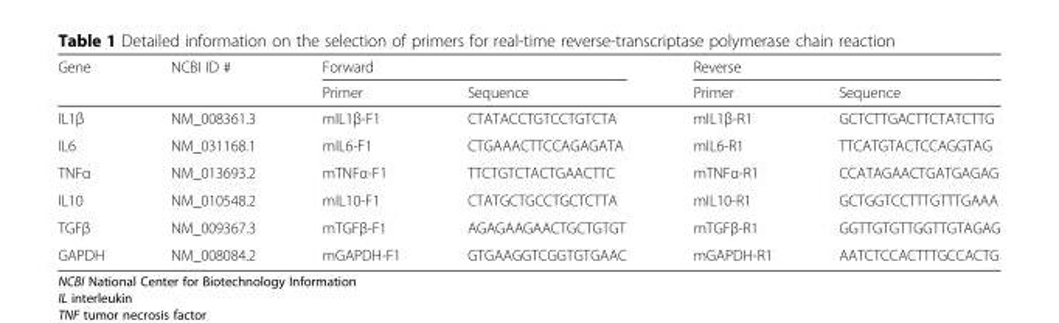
<table><thead><tr><td rowspan="2">Gene</td><td rowspan="2">NCBI ID #</td><td colspan="2">Forward</td><td colspan="2">Reverse</td></tr><tr><td>Primer</td><td>Sequence</td><td>Primer</td><td>Sequence</td></tr></thead><tbody><tr><td>IL1β</td><td>NM_008361.3</td><td>mIL1β-F1</td><td>CTATACCTGTCCTGTCTA</td><td>mIL1β-R1</td><td>GCTCTTGACTTCTATCTTG</td></tr><tr><td>IL6</td><td>NM_031168.1</td><td>mIL6-F1</td><td>CTGAAACTTCCAGAGATA</td><td>mIL6-R1</td><td>TTCATGTACTCCAGGTAG</td></tr><tr><td>TNFα</td><td>NM_013693.2</td><td>mTNFα-F1</td><td>TTCTGTCTACTGAACTTC</td><td>mTNFα-R1</td><td>CCATAGAACTGATGAGAG</td></tr><tr><td>IL10</td><td>NM_010548.2</td><td>mIL10-F1</td><td>CTATGCTGCCTGCTCTTA</td><td>mIL10-R1</td><td>GCTGGTCCTTTGTTTGAAA</td></tr><tr><td>TGFβ</td><td>NM_009367.3</td><td>mTGFβ-F1</td><td>AGAGAAGAACTGCTGTGT</td><td>mTGFβ-R1</td><td>GGTTGTGTTGGTTGTAGAG</td></tr><tr><td>GAPDH</td><td>NM_008084.2</td><td>mGAPDH-F1</td><td>GTGAAGGTCGGTGTGAAC</td><td>mGAPDH-R1</td><td>AATCTCCACTTTGCCACTG</td></tr></tbody></table>